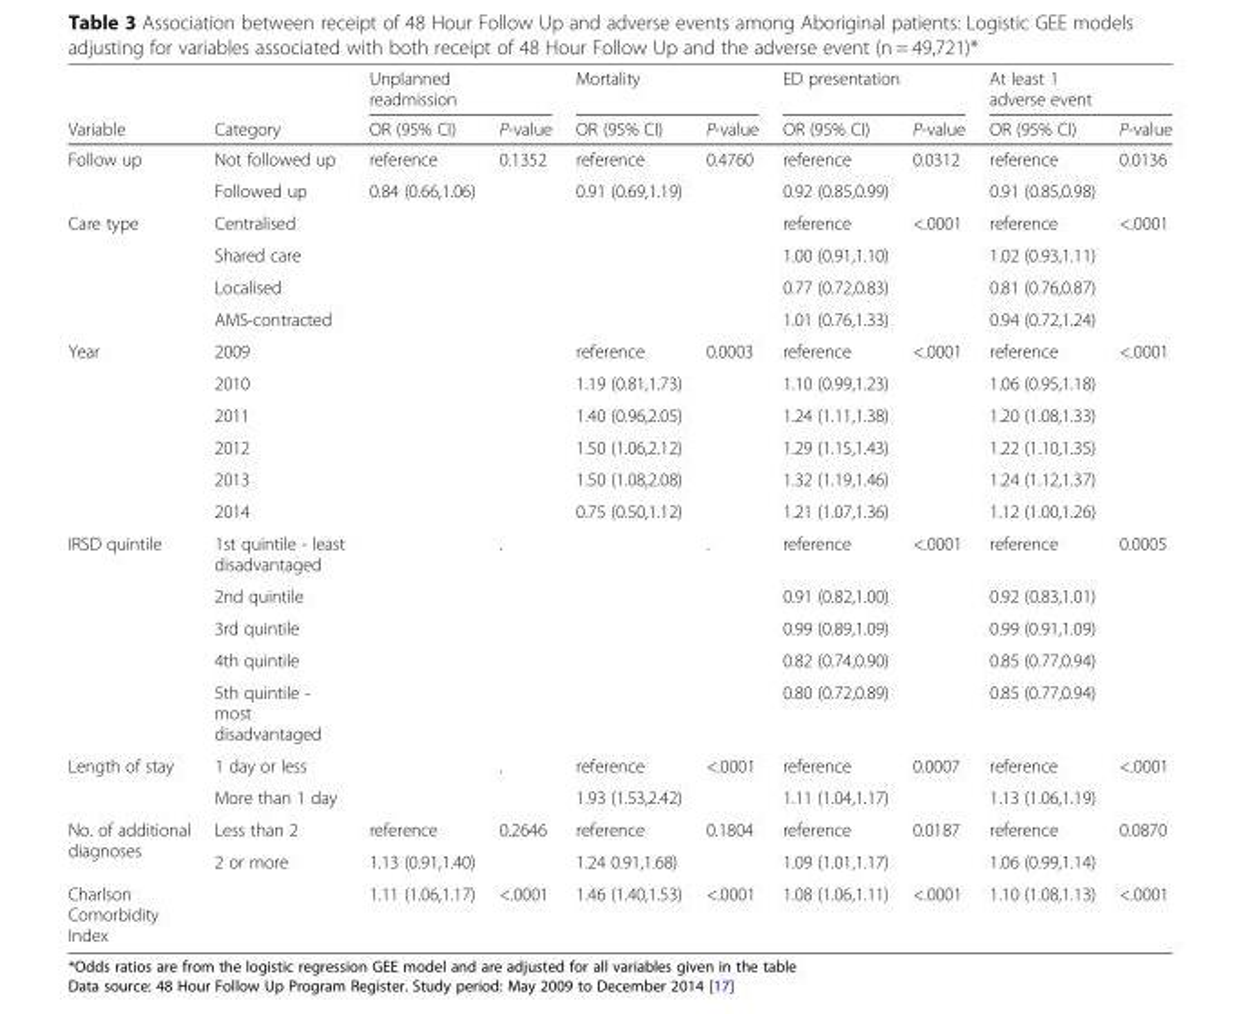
<table><thead><tr><td rowspan="2">Variable</td><td rowspan="2">Category</td><td colspan="2">Unplanned readmission</td><td colspan="2">Mortality</td><td colspan="2">ED presentation</td><td colspan="2">At least 1 adverse event</td></tr><tr><td>OR (95% CI)</td><td>P-value</td><td>OR (95% CI)</td><td>P-value</td><td>OR (95% CI)</td><td>P-value</td><td>OR (95% CI)</td><td>P-value</td></tr></thead><tbody><tr><td rowspan="2">Follow up</td><td>Not followed up</td><td>reference</td><td>0.1352</td><td>reference</td><td>0.4760</td><td>reference</td><td>0.0312</td><td>reference</td><td>0.0136</td></tr><tr><td>Followed up</td><td>0.84 (0.66,1.06)</td><td></td><td>0.91 (0.69,1.19)</td><td></td><td>0.92 (0.85,0.99)</td><td></td><td>0.91 (0.85,0.98)</td><td></td></tr><tr><td rowspan="4">Care type</td><td>Centralised</td><td></td><td></td><td></td><td></td><td>reference</td><td>&lt;.0001</td><td>reference</td><td>&lt;.0001</td></tr><tr><td>Shared care</td><td></td><td></td><td></td><td></td><td>1.00 (0.91,1.10)</td><td></td><td>1.02 (0.93,1.11)</td><td></td></tr><tr><td>Localised</td><td></td><td></td><td></td><td></td><td>0.77 (0.72,0.83)</td><td></td><td>0.81 (0.76,0.87)</td><td></td></tr><tr><td>AMS-contracted</td><td></td><td></td><td></td><td></td><td>1.01 (0.76,1.33)</td><td></td><td>0.94 (0.72,1.24)</td><td></td></tr><tr><td rowspan="6">Year</td><td>2009</td><td></td><td></td><td>reference</td><td>0.0003</td><td>reference</td><td>&lt;.0001</td><td>reference</td><td>&lt;.0001</td></tr><tr><td>2010</td><td></td><td></td><td>1.19 (0.81,1.73)</td><td></td><td>1.10 (0.99,1.23)</td><td></td><td>1.06 (0.95,1.18)</td><td></td></tr><tr><td>2011</td><td></td><td></td><td>1.40 (0.96,2.05)</td><td></td><td>1.24 (1.11,1.38)</td><td></td><td>1.20 (1.08,1.33)</td><td></td></tr><tr><td>2012</td><td></td><td></td><td>1.50 (1.06,2.12)</td><td></td><td>1.29 (1.15,1.43)</td><td></td><td>1.22 (1.10,1.35)</td><td></td></tr><tr><td>2013</td><td></td><td></td><td>1.50 (1.08,2.08)</td><td></td><td>1.32 (1.19,1.46)</td><td></td><td>1.24 (1.12,1.37)</td><td></td></tr><tr><td>2014</td><td></td><td></td><td>0.75 (0.50,1.12)</td><td></td><td>1.21 (1.07,1.36)</td><td></td><td>1.12 (1.00,1.26)</td><td></td></tr><tr><td rowspan="5">IRSD quintile</td><td>1st quintile - least disadvantaged</td><td></td><td>.</td><td></td><td>.</td><td>reference</td><td>&lt;.0001</td><td>reference</td><td>0.0005</td></tr><tr><td>2nd quintile</td><td></td><td></td><td></td><td></td><td>0.91 (0.82,1.00)</td><td></td><td>0.92 (0.83,1.01)</td><td></td></tr><tr><td>3rd quintile</td><td></td><td></td><td></td><td></td><td>0.99 (0.89,1.09)</td><td></td><td>0.99 (0.91,1.09)</td><td></td></tr><tr><td>4th quintile</td><td></td><td></td><td></td><td></td><td>0.82 (0.74,0.90)</td><td></td><td>0.85 (0.77,0.94)</td><td></td></tr><tr><td>5th quintile - most disadvantaged</td><td></td><td></td><td></td><td></td><td>0.80 (0.72,0.89)</td><td></td><td>0.85 (0.77,0.94)</td><td></td></tr><tr><td rowspan="2">Length of stay</td><td>1 day or less</td><td></td><td>.</td><td>reference</td><td>&lt;.0001</td><td>reference</td><td>0.0007</td><td>reference</td><td>&lt;.0001</td></tr><tr><td>More than 1 day</td><td></td><td></td><td>1.93 (1.53,2.42)</td><td></td><td>1.11 (1.04,1.17)</td><td></td><td>1.13 (1.06,1.19)</td><td></td></tr><tr><td rowspan="2">No. of additional diagnoses</td><td>Less than 2</td><td>reference</td><td>0.2646</td><td>reference</td><td>0.1804</td><td>reference</td><td>0.0187</td><td>reference</td><td>0.0870</td></tr><tr><td>2 or more</td><td>1.13 (0.91,1.40)</td><td></td><td>1.24 0.91,1.68)</td><td></td><td>1.09 (1.01,1.17)</td><td></td><td>1.06 (0.99,1.14)</td><td></td></tr><tr><td>Charlson Comorbidity Index</td><td></td><td>1.11 (1.06,1.17)</td><td>&lt;.0001</td><td>1.46 (1.40,1.53)</td><td>&lt;.0001</td><td>1.08 (1.06,1.11)</td><td>&lt;.0001</td><td>1.10 (1.08,1.13)</td><td>&lt;.0001</td></tr></tbody></table>